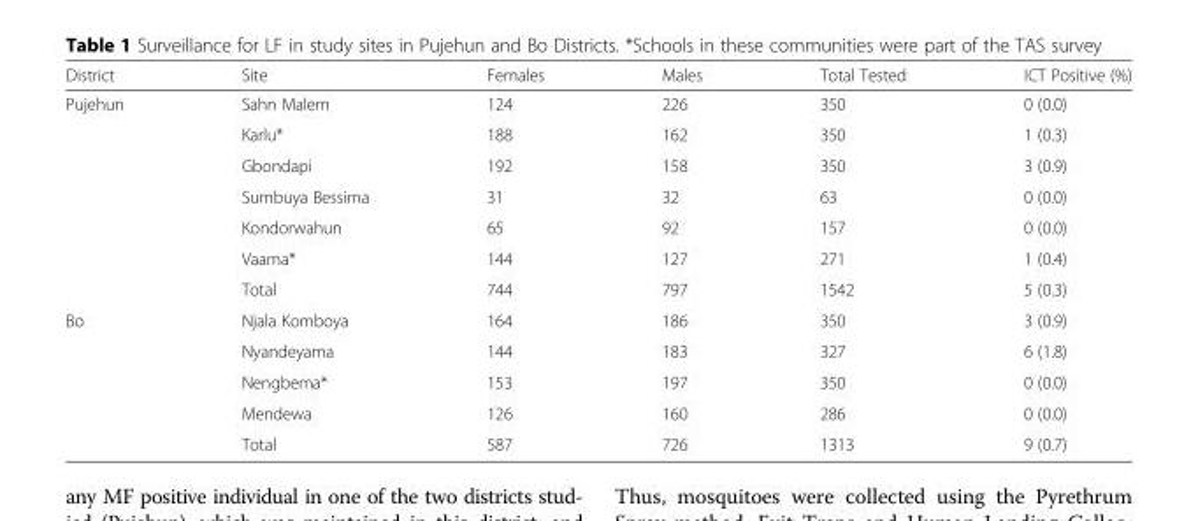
<table><thead><tr><td>District</td><td>Site</td><td>Females</td><td>Males</td><td>Total Tested</td><td>ICT Positive (%)</td></tr></thead><tbody><tr><td rowspan="7">Pujehun</td><td>Sahn Malem</td><td>124</td><td>226</td><td>350</td><td>0 (0.0)</td></tr><tr><td>Karlu*</td><td>188</td><td>162</td><td>350</td><td>1 (0.3)</td></tr><tr><td>Gbondapi</td><td>192</td><td>158</td><td>350</td><td>3 (0.9)</td></tr><tr><td>Sumbuya Bessima</td><td>31</td><td>32</td><td>63</td><td>0 (0.0)</td></tr><tr><td>Kondorwahun</td><td>65</td><td>92</td><td>157</td><td>0 (0.0)</td></tr><tr><td>Vaama*</td><td>144</td><td>127</td><td>271</td><td>1 (0.4)</td></tr><tr><td>Total</td><td>744</td><td>797</td><td>1542</td><td>5 (0.3)</td></tr><tr><td rowspan="5">Bo</td><td>Njala Komboya</td><td>164</td><td>186</td><td>350</td><td>3 (0.9)</td></tr><tr><td>Nyandeyama</td><td>144</td><td>183</td><td>327</td><td>6 (1.8)</td></tr><tr><td>Nengbema*</td><td>153</td><td>197</td><td>350</td><td>0 (0.0)</td></tr><tr><td>Mendewa</td><td>126</td><td>160</td><td>286</td><td>0 (0.0)</td></tr><tr><td>Total</td><td>587</td><td>726</td><td>1313</td><td>9 (0.7)</td></tr></tbody></table>